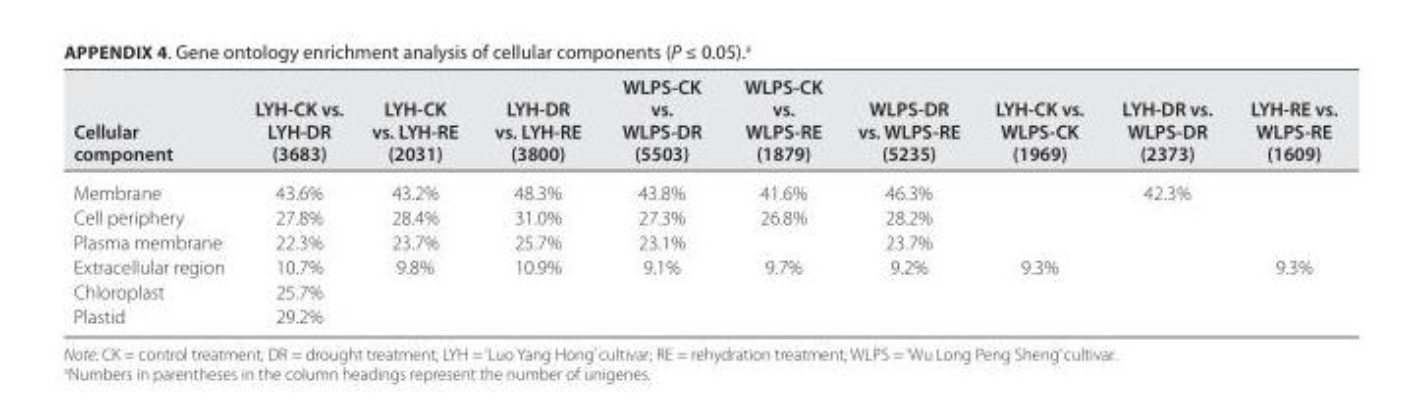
<table><thead><tr><td>Cellular component</td><td>LYH- CK vs. LYH- DR (3683)</td><td>LYH- CK vs. LYH- RE (2031)</td><td>LYH- DR vs. LYH- RE (3800)</td><td>WLPS- CK vs. WLPS- DR (5503)</td><td>WLPS- CK vs. WLPS- RE (1879)</td><td>WLPS- DR vs. WLPS- RE (5235)</td><td>LYH- CK vs. WLPS- CK (1969)</td><td>LYH- DR vs. WLPS- DR (2373)</td><td>LYH- RE vs. WLPS- RE (1609)</td></tr></thead><tbody><tr><td>Membrane</td><td>43.6%</td><td>43.2%</td><td>48.3%</td><td>43.8%</td><td>41.6%</td><td>46.3%</td><td></td><td>42.3%</td><td></td></tr><tr><td>Cell periphery</td><td>27.8%</td><td>28.4%</td><td>31.0%</td><td>27.3%</td><td>26.8%</td><td>28.2%</td><td></td><td></td><td></td></tr><tr><td>Plasma membrane</td><td>22.3%</td><td>23.7%</td><td>25.7%</td><td>23.1%</td><td></td><td>23.7%</td><td></td><td></td><td></td></tr><tr><td>Extracellular region</td><td>10.7%</td><td>9.8%</td><td>10.9%</td><td>9.1%</td><td>9.7%</td><td>9.2%</td><td>9.3%</td><td></td><td>9.3%</td></tr><tr><td>Chloroplast</td><td>25.7%</td><td></td><td></td><td></td><td></td><td></td><td></td><td></td><td></td></tr><tr><td>Plastid</td><td>29.2%</td><td></td><td></td><td></td><td></td><td></td><td></td><td></td><td></td></tr></tbody></table>